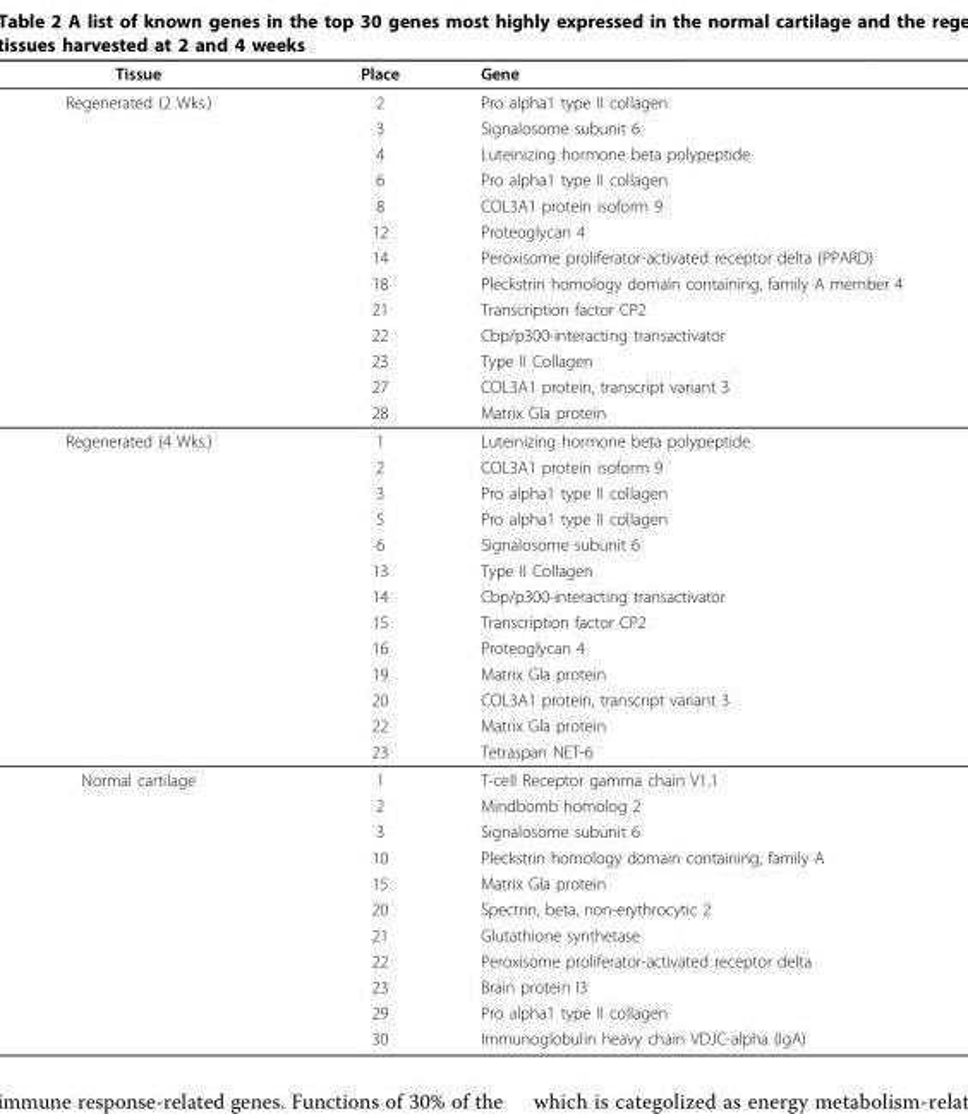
<table><thead><tr><td>Tissue</td><td>Place</td><td>Gene</td></tr></thead><tbody><tr><td rowspan="13">Regenerated (2 Wks.)</td><td>2</td><td>Pro alpha1 type II collagen</td></tr><tr><td>3</td><td>Signalosome subunit 6</td></tr><tr><td>4</td><td>Luteinizing hormone beta polypeptide</td></tr><tr><td>6</td><td>Pro alpha1 type II collagen</td></tr><tr><td>8</td><td>COL3A1 protein isoform 9</td></tr><tr><td>12</td><td>Proteoglycan 4</td></tr><tr><td>14</td><td>Peroxisome proliferator-activated receptor delta (PPARD)</td></tr><tr><td>18</td><td>Pleckstrin homology domain containing, family A member 4</td></tr><tr><td>21</td><td>Transcription factor CP2</td></tr><tr><td>22</td><td>Cbp/p300-interacting transactivator</td></tr><tr><td>23</td><td>Type II Collagen</td></tr><tr><td>27</td><td>COL3A1 protein, transcript variant 3</td></tr><tr><td>28</td><td>Matrix Gla protein</td></tr><tr><td rowspan="13">Regenerated (4 Wks.)</td><td>1</td><td>Luteinizing hormone beta polypeptide</td></tr><tr><td>2</td><td>COL3A1 protein isoform 9</td></tr><tr><td>3</td><td>Pro alpha1 type II collagen</td></tr><tr><td>5</td><td>Pro alpha1 type II collagen</td></tr><tr><td>6</td><td>Signalosome subunit 6</td></tr><tr><td>13</td><td>Type II Collagen</td></tr><tr><td>14</td><td>Cbp/p300-interacting transactivator</td></tr><tr><td>15</td><td>Transcription factor CP2</td></tr><tr><td>16</td><td>Proteoglycan 4</td></tr><tr><td>19</td><td>Matrix Gla protein</td></tr><tr><td>20</td><td>COL3A1 protein, transcript variant 3</td></tr><tr><td>22</td><td>Matrix Gla protein</td></tr><tr><td>23</td><td>Tetraspan NET-6</td></tr><tr><td rowspan="11">Normal cartilage</td><td>1</td><td>T-cell Receptor gamma chain V1.1</td></tr><tr><td>2</td><td>Mindbomb homolog 2</td></tr><tr><td>3</td><td>Signalosome subunit 6</td></tr><tr><td>10</td><td>Pleckstrin homology domain containing, family A</td></tr><tr><td>15</td><td>Matrix Gla protein</td></tr><tr><td>20</td><td>Spectrin, beta, non-erythrocytic 2</td></tr><tr><td>21</td><td>Glutathione synthetase</td></tr><tr><td>22</td><td>Peroxisome proliferator-activated receptor delta</td></tr><tr><td>23</td><td>Brain protein I3</td></tr><tr><td>29</td><td>Pro alpha1 type II collagen</td></tr><tr><td>30</td><td>Immunoglobulin heavy chain VDJC-alpha (IgA)</td></tr></tbody></table>